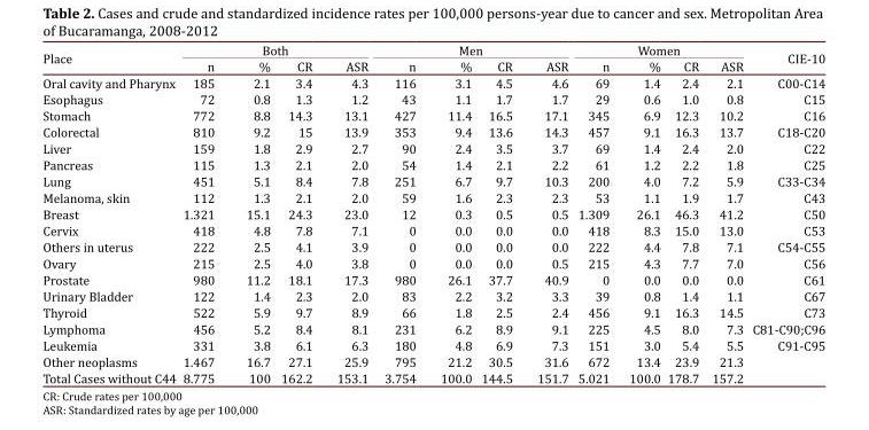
<table><thead><tr><td rowspan="2">Place</td><td colspan="4">Both</td><td colspan="4">Men</td><td colspan="4">Women</td><td rowspan="2">CIE-10</td></tr><tr><td>n</td><td>%</td><td>CR</td><td>ASR</td><td>n</td><td>%</td><td>CR</td><td>ASR</td><td>n</td><td>%</td><td>CR</td><td>ASR</td></tr></thead><tbody><tr><td>Oral cavity and Pharynx</td><td>185</td><td>2.1</td><td>3.4</td><td>4.3</td><td>116</td><td>3.1</td><td>4.5</td><td>4.6</td><td>69</td><td>1.4</td><td>2.4</td><td>2.1</td><td>C00-C14</td></tr><tr><td>Esophagus</td><td>72</td><td>0.8</td><td>1.3</td><td>1.2</td><td>43</td><td>1.1</td><td>1.7</td><td>1.7</td><td>29</td><td>0.6</td><td>1.0</td><td>0.8</td><td>C15</td></tr><tr><td>Stomach</td><td>772</td><td>8.8</td><td>14.3</td><td>13.1</td><td>427</td><td>11.4</td><td>16.5</td><td>17.1</td><td>345</td><td>6.9</td><td>12.3</td><td>10.2</td><td>C16</td></tr><tr><td>Colorectal</td><td>810</td><td>9.2</td><td>15</td><td>13.9</td><td>353</td><td>9.4</td><td>13.6</td><td>14.3</td><td>457</td><td>9.1</td><td>16.3</td><td>13.7</td><td>C18-C20</td></tr><tr><td>Liver</td><td>159</td><td>1.8</td><td>2.9</td><td>2.7</td><td>90</td><td>2.4</td><td>3.5</td><td>3.7</td><td>69</td><td>1.4</td><td>2.4</td><td>2.0</td><td>C22</td></tr><tr><td>Pancreas</td><td>115</td><td>1.3</td><td>2.1</td><td>2.0</td><td>54</td><td>1.4</td><td>2.1</td><td>2.2</td><td>61</td><td>1.2</td><td>2.2</td><td>1.8</td><td>C25</td></tr><tr><td>Lung</td><td>451</td><td>5.1</td><td>8.4</td><td>7.8</td><td>251</td><td>6.7</td><td>9.7</td><td>10.3</td><td>200</td><td>4.0</td><td>7.2</td><td>5.9</td><td>C33-C34</td></tr><tr><td>Melanoma, skin</td><td>112</td><td>1.3</td><td>2.1</td><td>2.0</td><td>59</td><td>1.6</td><td>2.3</td><td>2.3</td><td>53</td><td>1.1</td><td>1.9</td><td>1.7</td><td>C43</td></tr><tr><td>Breast</td><td>1.321</td><td>15.1</td><td>24.3</td><td>23.0</td><td>12</td><td>0.3</td><td>0.5</td><td>0.5</td><td>1.309</td><td>26.1</td><td>46.3</td><td>41.2</td><td>C50</td></tr><tr><td>Cervix</td><td>418</td><td>4.8</td><td>7.8</td><td>7.1</td><td>0</td><td>0.0</td><td>0.0</td><td>0.0</td><td>418</td><td>8.3</td><td>15.0</td><td>13.0</td><td>C53</td></tr><tr><td>Others in uterus</td><td>222</td><td>2.5</td><td>4.1</td><td>3.9</td><td>0</td><td>0.0</td><td>0.0</td><td>0.0</td><td>222</td><td>4.4</td><td>7.8</td><td>7.1</td><td>C54-C55</td></tr><tr><td>Ovary</td><td>215</td><td>2.5</td><td>4.0</td><td>3.8</td><td>0</td><td>0.0</td><td>0.0</td><td>0.5</td><td>215</td><td>4.3</td><td>7.7</td><td>7.0</td><td>C56</td></tr><tr><td>Prostate</td><td>980</td><td>11.2</td><td>18.1</td><td>17.3</td><td>980</td><td>26.1</td><td>37.7</td><td>40.9</td><td>0</td><td>0.0</td><td>0.0</td><td>0.0</td><td>C61</td></tr><tr><td>Urinary Bladder</td><td>122</td><td>1.4</td><td>2.3</td><td>2.0</td><td>83</td><td>2.2</td><td>3.2</td><td>3.3</td><td>39</td><td>0.8</td><td>1.4</td><td>1.1</td><td>C67</td></tr><tr><td>Thyroid</td><td>522</td><td>5.9</td><td>9.7</td><td>8.9</td><td>66</td><td>1.8</td><td>2.5</td><td>2.4</td><td>456</td><td>9.1</td><td>16.3</td><td>14.5</td><td>C73</td></tr><tr><td>Lymphoma</td><td>456</td><td>5.2</td><td>8.4</td><td>8.1</td><td>231</td><td>6.2</td><td>8.9</td><td>9.1</td><td>225</td><td>4.5</td><td>8.0</td><td>7.3</td><td>C81-C90;C96</td></tr><tr><td>Leukemia</td><td>331</td><td>3.8</td><td>6.1</td><td>6.3</td><td>180</td><td>4.8</td><td>6.9</td><td>7.3</td><td>151</td><td>3.0</td><td>5.4</td><td>5.5</td><td>C91-C95</td></tr><tr><td>Other neoplasms</td><td>1.467</td><td>16.7</td><td>27.1</td><td>25.9</td><td>795</td><td>21.2</td><td>30.5</td><td>31.6</td><td>672</td><td>13.4</td><td>23.9</td><td>21.3</td><td></td></tr><tr><td>Total Cases without C44</td><td>8.775</td><td>100</td><td>162.2</td><td>153.1</td><td>3.754</td><td>100.0</td><td>144.5</td><td>151.7</td><td>5.021</td><td>100.0</td><td>178.7</td><td>157.2</td><td></td></tr></tbody></table>